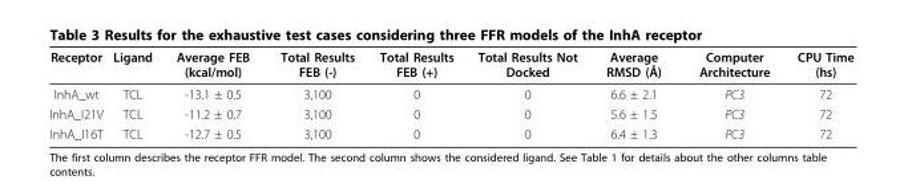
<table><thead><tr><td>Receptor</td><td>Ligand</td><td>Average FEB (kcal/mol)</td><td>Total Results FEB (-)</td><td>Total Results FEB (+)</td><td>Total Results Not Docked</td><td>Average RMSD (Å)</td><td>Computer Architecture</td><td>CPU Time (hs)</td></tr></thead><tbody><tr><td>InhA_wt</td><td>TCL</td><td>-13.1 ± 0.5</td><td>3,100</td><td>0</td><td>0</td><td>6.6 ± 2.1</td><td>PC3</td><td>72</td></tr><tr><td>InhA_I21V</td><td>TCL</td><td>-11.2 ± 0.7</td><td>3,100</td><td>0</td><td>0</td><td>5.6 ± 1.5</td><td>PC3</td><td>72</td></tr><tr><td>InhA_I16T</td><td>TCL</td><td>-12.7 ± 0.5</td><td>3,100</td><td>0</td><td>0</td><td>6.4 ± 1.3</td><td>PC3</td><td>72</td></tr></tbody></table>